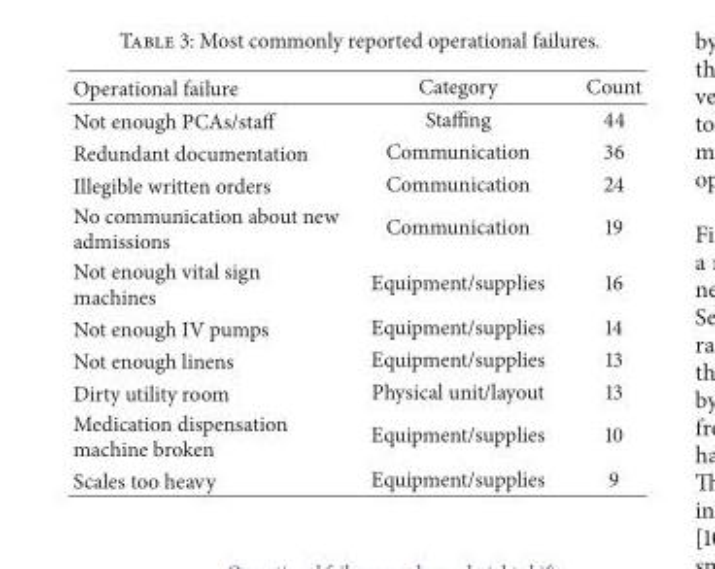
<table><thead><tr><td>Operational failure</td><td>Category</td><td>Count</td></tr></thead><tbody><tr><td>Not enough PCAs/staff</td><td>Staffing</td><td>44</td></tr><tr><td>Redundant documentation</td><td>Communication</td><td>36</td></tr><tr><td>Illegible written orders</td><td>Communication</td><td>24</td></tr><tr><td>No communication about new admissions</td><td>Communication</td><td>19</td></tr><tr><td>Not enough vital sign machines</td><td>Equipment/supplies</td><td>16</td></tr><tr><td>Not enough IV pumps</td><td>Equipment/supplies</td><td>14</td></tr><tr><td>Not enough linens</td><td>Equipment/supplies</td><td>13</td></tr><tr><td>Dirty utility room</td><td>Physical unit/layout</td><td>13</td></tr><tr><td>Medication dispensation machine broken</td><td>Equipment/supplies</td><td>10</td></tr><tr><td>Scales too heavy</td><td>Equipment/supplies</td><td>9</td></tr></tbody></table>